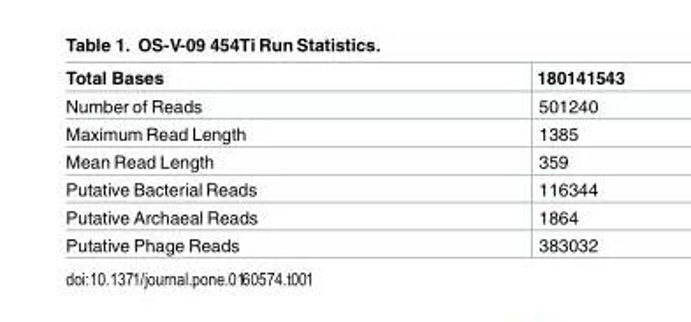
<table><thead><tr><td>Total Bases</td><td>180141543</td></tr></thead><tbody><tr><td>Number of Reads</td><td>501240</td></tr><tr><td>Maximum Read Length</td><td>1385</td></tr><tr><td>Mean Read Length</td><td>359</td></tr><tr><td>Putative Bacterial Reads</td><td>116344</td></tr><tr><td>Putative Archaeal Reads</td><td>1864</td></tr><tr><td>Putative Phage Reads</td><td>383032</td></tr></tbody></table>